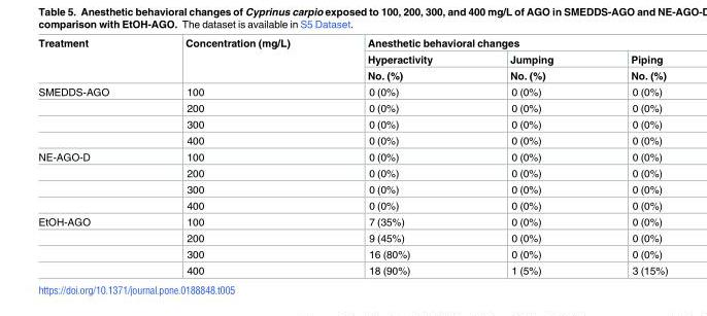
<table><thead><tr><td rowspan="3">Treatment</td><td rowspan="3">Concentration (mg/L)</td><td colspan="3">Anesthetic behavioral changes</td></tr><tr><td rowspan="2">Hyperactivity No. (%)</td><td rowspan="2">Jumping No. (%)</td><td rowspan="2">Piping No. (%)</td></tr><tr></tr></thead><tbody><tr><td rowspan="4">SMEDDS-AGO</td><td>100</td><td>0 (0%)</td><td>0 (0%)</td><td>0 (0%)</td></tr><tr><td>200</td><td>0 (0%)</td><td>0 (0%)</td><td>0 (0%)</td></tr><tr><td>300</td><td>0 (0%)</td><td>0 (0%)</td><td>0 (0%)</td></tr><tr><td>400</td><td>0 (0%)</td><td>0 (0%)</td><td>0 (0%)</td></tr><tr><td rowspan="4">NE-AGO-D</td><td>100</td><td>0 (0%)</td><td>0 (0%)</td><td>0 (0%)</td></tr><tr><td>200</td><td>0 (0%)</td><td>0 (0%)</td><td>0 (0%)</td></tr><tr><td>300</td><td>0 (0%)</td><td>0 (0%)</td><td>0 (0%)</td></tr><tr><td>400</td><td>0 (0%)</td><td>0 (0%)</td><td>0 (0%)</td></tr><tr><td rowspan="4">EtOH-AGO</td><td>100</td><td>7 (35%)</td><td>0 (0%)</td><td>0 (0%)</td></tr><tr><td>200</td><td>9 (45%)</td><td>0 (0%)</td><td>0 (0%)</td></tr><tr><td>300</td><td>16 (80%)</td><td>0 (0%)</td><td>0 (0%)</td></tr><tr><td>400</td><td>18 (90%)</td><td>1 (5%)</td><td>3 (15%)</td></tr></tbody></table>